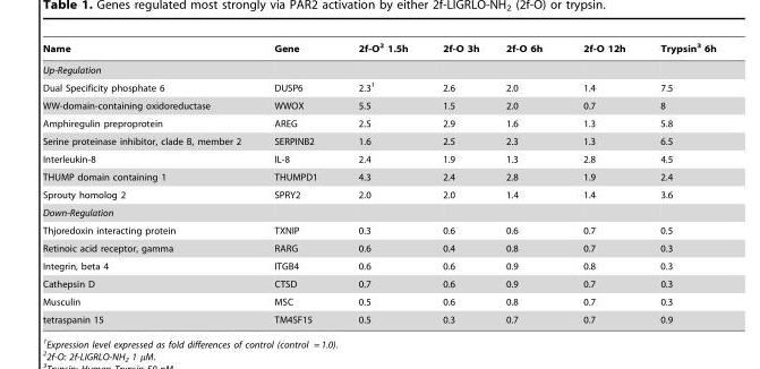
<table><thead><tr><td>Name</td><td>Gene</td><td>2f-O<sup>2</sup> 1.5h</td><td>2f-O 3h</td><td>2f-O 6h</td><td>2f-O 12h</td><td>Trypsin<sup>3</sup> 6h</td></tr></thead><tbody><tr><td colspan="7">Up-Regulation</td></tr><tr><td>Dual Specificity phosphate 6</td><td>DUSP6</td><td>2.3<sup>1</sup></td><td>2.6</td><td>2.0</td><td>1.4</td><td>7.5</td></tr><tr><td>WW-domain-containing oxidoreductase</td><td>WWOX</td><td>5.5</td><td>1.5</td><td>2.0</td><td>0.7</td><td>8</td></tr><tr><td>Amphiregulin preproprotein</td><td>AREG</td><td>2.5</td><td>2.9</td><td>1.6</td><td>1.3</td><td>5.8</td></tr><tr><td>Serine proteinase inhibitor, clade B, member 2</td><td>SERPINB2</td><td>1.6</td><td>2.5</td><td>2.3</td><td>1.3</td><td>6.5</td></tr><tr><td>Interleukin-8</td><td>IL-8</td><td>2.4</td><td>1.9</td><td>1.3</td><td>2.8</td><td>4.5</td></tr><tr><td>THUMP domain containing 1</td><td>THUMPD1</td><td>4.3</td><td>2.4</td><td>2.8</td><td>1.9</td><td>2.4</td></tr><tr><td>Sprouty homolog 2</td><td>SPRY2</td><td>2.0</td><td>2.0</td><td>1.4</td><td>1.4</td><td>3.6</td></tr><tr><td colspan="7">Down-Regulation</td></tr><tr><td>Thjoredoxin interacting protein</td><td>TXNIP</td><td>0.3</td><td>0.6</td><td>0.6</td><td>0.7</td><td>0.5</td></tr><tr><td>Retinoic acid receptor, gamma</td><td>RARG</td><td>0.6</td><td>0.4</td><td>0.8</td><td>0.7</td><td>0.3</td></tr><tr><td>Integrin, beta 4</td><td>ITGB4</td><td>0.6</td><td>0.6</td><td>0.9</td><td>0.8</td><td>0.3</td></tr><tr><td>Cathepsin D</td><td>CTSD</td><td>0.7</td><td>0.6</td><td>0.9</td><td>0.7</td><td>0.3</td></tr><tr><td>Musculin</td><td>MSC</td><td>0.5</td><td>0.6</td><td>0.8</td><td>0.7</td><td>0.3</td></tr><tr><td>tetraspanin 15</td><td>TM4SF15</td><td>0.5</td><td>0.3</td><td>0.7</td><td>0.7</td><td>0.9</td></tr></tbody></table>